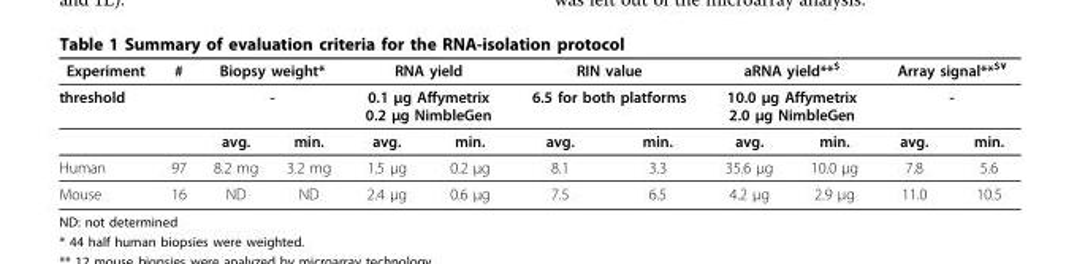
<table><thead><tr><td rowspan="3">Experiment threshold</td><td rowspan="3">#</td><td rowspan="2" colspan="2">Biopsy weight* -</td><td rowspan="2" colspan="2">RNA yield 0.1 μg Affymetrix 0.2 μg NimbleGen</td><td rowspan="2" colspan="2">RIN value 6.5 for both platforms</td><td rowspan="2" colspan="2">aRNA yield**$ 10.0 μg Affymetrix 2.0 μg NimbleGen</td><td rowspan="2" colspan="2">Array signal**$¥ -</td></tr><tr></tr><tr><td>avg.</td><td>min.</td><td>avg.</td><td>min.</td><td>avg.</td><td>min.</td><td>avg.</td><td>min.</td><td>avg.</td><td>min.</td></tr></thead><tbody><tr><td>Human</td><td>97</td><td>8.2 mg</td><td>3.2 mg</td><td>1.5 μg</td><td>0.2 μg</td><td>8.1</td><td>3.3</td><td>35.6 μg</td><td>10.0 μg</td><td>7.8</td><td>5.6</td></tr><tr><td>Mouse</td><td>16</td><td>ND</td><td>ND</td><td>2.4 μg</td><td>0.6 μg</td><td>7.5</td><td>6.5</td><td>4.2 μg</td><td>2.9 μg</td><td>11.0</td><td>10.5</td></tr></tbody></table>